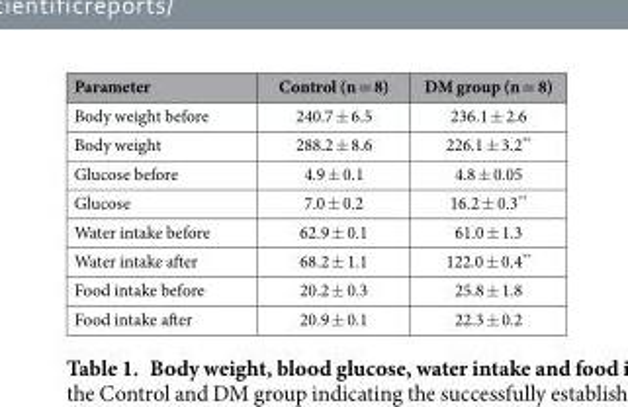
<table><thead><tr><td>Parameter</td><td>Control (n = 8)</td><td>DM group (n = 8)</td></tr></thead><tbody><tr><td>Body weight before</td><td>240.7 ± 6.5</td><td>236.1 ± 2.6</td></tr><tr><td>Body weight</td><td>288.2 ± 8.6</td><td>226.1 ± 3.2**</td></tr><tr><td>Glucose before</td><td>4.9 ± 0.1</td><td>4.8 ± 0.05</td></tr><tr><td>Glucose</td><td>7.0 ± 0.2</td><td>16.2 ± 0.3**</td></tr><tr><td>Water intake before</td><td>62.9 ± 0.1</td><td>61.0 ± 1.3</td></tr><tr><td>Water intake after</td><td>68.2 ± 1.1</td><td>122.0 ± 0.4**</td></tr><tr><td>Food intake before</td><td>20.2 ± 0.3</td><td>25.8 ± 1.8</td></tr><tr><td>Food intake after</td><td>20.9 ± 0.1</td><td>22.3 ± 0.2</td></tr></tbody></table>